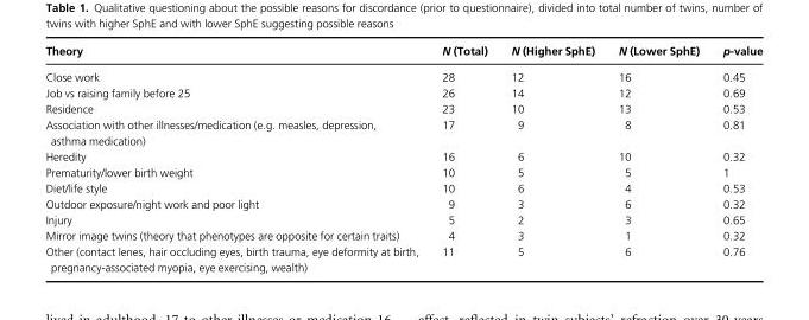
<table><thead><tr><td>Theory</td><td>N (Total)</td><td>N (Higher SphE)</td><td>N (Lower SphE)</td><td>p-value</td></tr></thead><tbody><tr><td>Close work</td><td>28</td><td>12</td><td>16</td><td>0.45</td></tr><tr><td>Job vs raising family before 25</td><td>26</td><td>14</td><td>12</td><td>0.69</td></tr><tr><td>Residence</td><td>23</td><td>10</td><td>13</td><td>0.53</td></tr><tr><td>Association with other illnesses/medication (e.g. measles, depression, asthma medication)</td><td>17</td><td>9</td><td>8</td><td>0.81</td></tr><tr><td>Heredity</td><td>16</td><td>6</td><td>10</td><td>0.32</td></tr><tr><td>Prematurity/lower birth weight</td><td>10</td><td>5</td><td>5</td><td>1</td></tr><tr><td>Diet/life style</td><td>10</td><td>6</td><td>4</td><td>0.53</td></tr><tr><td>Outdoor exposure/night work and poor light</td><td>9</td><td>3</td><td>6</td><td>0.32</td></tr><tr><td>Injury</td><td>5</td><td>2</td><td>3</td><td>0.65</td></tr><tr><td>Mirror image twins (theory that phenotypes are opposite for certain traits)</td><td>4</td><td>3</td><td>1</td><td>0.32</td></tr><tr><td>Other (contact lenes, hair occluding eyes, birth trauma, eye deformity at birth, pregnancy-associated myopia, eye exercising, wealth)</td><td>11</td><td>5</td><td>6</td><td>0.76</td></tr></tbody></table>